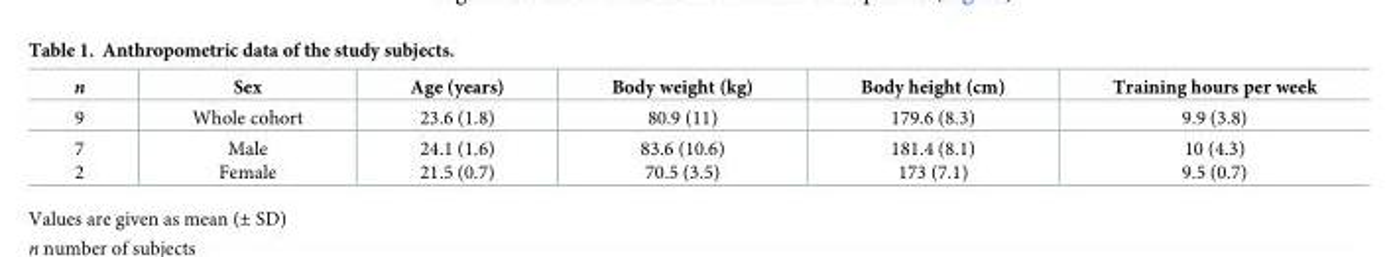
<table><thead><tr><td>n</td><td>Sex</td><td>Age (years)</td><td>Body weight (kg)</td><td>Body height (cm)</td><td>Training hours per week</td></tr></thead><tbody><tr><td>9</td><td>Whole cohort</td><td>23.6 (1.8)</td><td>80.9 (11)</td><td>179.6 (8.3)</td><td>9.9 (3.8)</td></tr><tr><td>7 2</td><td>Male Female</td><td>24.1 (1.6) 21.5 (0.7)</td><td>83.6 (10.6) 70.5 (3.5)</td><td>181.4 (8.1) 173 (7.1)</td><td>10 (4.3) 9.5 (0.7)</td></tr></tbody></table>